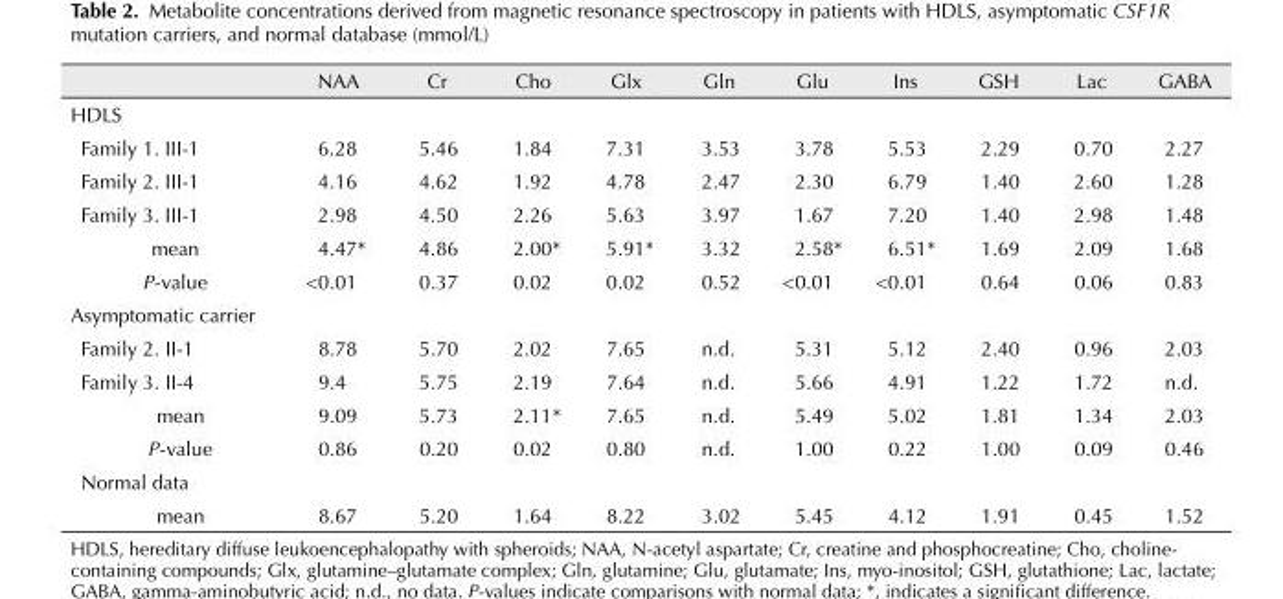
<table><thead><tr><td></td><td>NAA</td><td>Cr</td><td>Cho</td><td>Glx</td><td>Gln</td><td>Glu</td><td>Ins</td><td>GSH</td><td>Lac</td><td>GABA</td></tr></thead><tbody><tr><td colspan="11">HDLS</td></tr><tr><td>Family 1. III-1</td><td>6.28</td><td>5.46</td><td>1.84</td><td>7.31</td><td>3.53</td><td>3.78</td><td>5.53</td><td>2.29</td><td>0.70</td><td>2.27</td></tr><tr><td>Family 2. III-1</td><td>4.16</td><td>4.62</td><td>1.92</td><td>4.78</td><td>2.47</td><td>2.30</td><td>6.79</td><td>1.40</td><td>2.60</td><td>1.28</td></tr><tr><td>Family 3. III-1</td><td>2.98</td><td>4.50</td><td>2.26</td><td>5.63</td><td>3.97</td><td>1.67</td><td>7.20</td><td>1.40</td><td>2.98</td><td>1.48</td></tr><tr><td>mean</td><td>4.47*</td><td>4.86</td><td>2.00*</td><td>5.91*</td><td>3.32</td><td>2.58*</td><td>6.51*</td><td>1.69</td><td>2.09</td><td>1.68</td></tr><tr><td>P-value</td><td>&lt;0.01</td><td>0.37</td><td>0.02</td><td>0.02</td><td>0.52</td><td>&lt;0.01</td><td>&lt;0.01</td><td>0.64</td><td>0.06</td><td>0.83</td></tr><tr><td colspan="11">Asymptomatic carrier</td></tr><tr><td>Family 2. II-1</td><td>8.78</td><td>5.70</td><td>2.02</td><td>7.65</td><td>n.d.</td><td>5.31</td><td>5.12</td><td>2.40</td><td>0.96</td><td>2.03</td></tr><tr><td>Family 3. II-4</td><td>9.4</td><td>5.75</td><td>2.19</td><td>7.64</td><td>n.d.</td><td>5.66</td><td>4.91</td><td>1.22</td><td>1.72</td><td>n.d.</td></tr><tr><td>mean</td><td>9.09</td><td>5.73</td><td>2.11*</td><td>7.65</td><td>n.d.</td><td>5.49</td><td>5.02</td><td>1.81</td><td>1.34</td><td>2.03</td></tr><tr><td>P-value</td><td>0.86</td><td>0.20</td><td>0.02</td><td>0.80</td><td>n.d.</td><td>1.00</td><td>0.22</td><td>1.00</td><td>0.09</td><td>0.46</td></tr><tr><td colspan="11">Normal data</td></tr><tr><td>mean</td><td>8.67</td><td>5.20</td><td>1.64</td><td>8.22</td><td>3.02</td><td>5.45</td><td>4.12</td><td>1.91</td><td>0.45</td><td>1.52</td></tr></tbody></table>